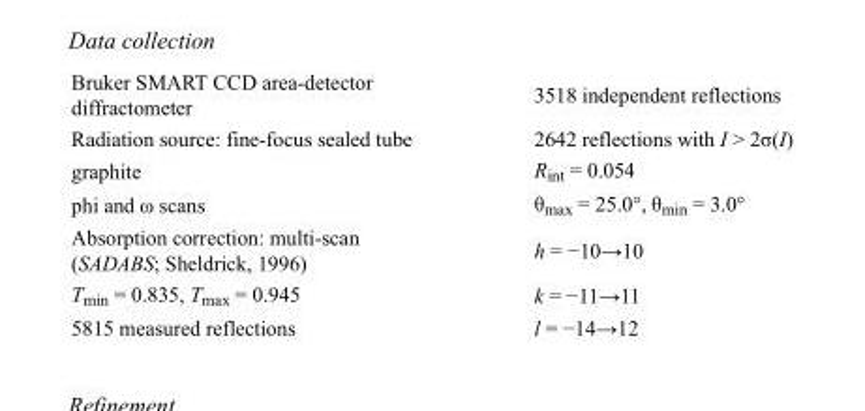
<table><tbody><tr><td>Bruker SMART CCD area-detector diffractometer</td><td>3518 independent reflections</td></tr><tr><td>Radiation source: fine-focus sealed tube</td><td>2642 reflections with I &gt; 2σ(I)</td></tr><tr><td>graphite</td><td>R<sub>int</sub> = 0.054</td></tr><tr><td>phi and ω scans</td><td>θ<sub>max</sub> = 25.0°, θ<sub>min</sub> = 3.0°</td></tr><tr><td>Absorption correction: multi-scan (SADABS; Sheldrick, 1996)</td><td>h = −10→10</td></tr><tr><td>T<sub>min</sub> = 0.835, T<sub>max</sub> = 0.945</td><td>k = −11→11</td></tr><tr><td>5815 measured reflections</td><td>l = −14→12</td></tr></tbody></table>